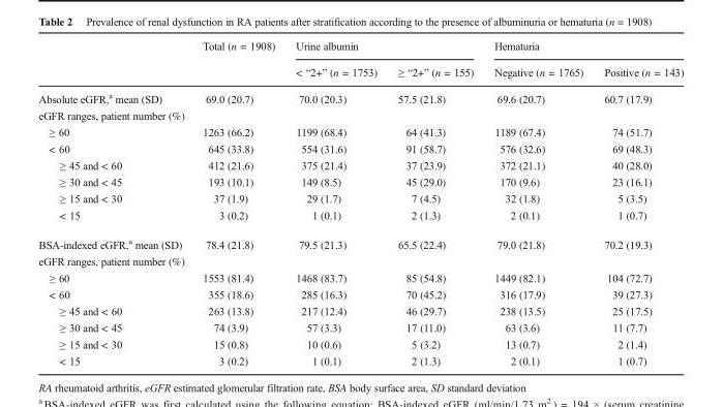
<table><thead><tr><td rowspan="2"></td><td rowspan="2">Total (n = 1908)</td><td colspan="2">Urine albumin</td><td colspan="2">Hematuria</td></tr><tr><td>&lt; “2+” (n = 1753)</td><td>≥ “2+” (n = 155)</td><td>Negative (n = 1765)</td><td>Positive (n = 143)</td></tr></thead><tbody><tr><td>Absolute eGFR,<sup>a</sup> mean (SD)</td><td>69.0 (20.7)</td><td>70.0 (20.3)</td><td>57.5 (21.8)</td><td>69.6 (20.7)</td><td>60.7 (17.9)</td></tr><tr><td colspan="6">eGFR ranges, patient number (%)</td></tr><tr><td>≥ 60</td><td>1263 (66.2)</td><td>1199 (68.4)</td><td>64 (41.3)</td><td>1189 (67.4)</td><td>74 (51.7)</td></tr><tr><td>&lt; 60</td><td>645 (33.8)</td><td>554 (31.6)</td><td>91 (58.7)</td><td>576 (32.6)</td><td>69 (48.3)</td></tr><tr><td>≥ 45 and &lt; 60</td><td>412 (21.6)</td><td>375 (21.4)</td><td>37 (23.9)</td><td>372 (21.1)</td><td>40 (28.0)</td></tr><tr><td>≥ 30 and &lt; 45</td><td>193 (10.1)</td><td>149 (8.5)</td><td>45 (29.0)</td><td>170 (9.6)</td><td>23 (16.1)</td></tr><tr><td>≥ 15 and &lt; 30</td><td>37 (1.9)</td><td>29 (1.7)</td><td>7 (4.5)</td><td>32 (1.8)</td><td>5 (3.5)</td></tr><tr><td>&lt; 15</td><td>3 (0.2)</td><td>1 (0.1)</td><td>2 (1.3)</td><td>2 (0.1)</td><td>1 (0.7)</td></tr><tr><td>BSA-indexed eGFR,<sup>a</sup> mean (SD)</td><td>78.4 (21.8)</td><td>79.5 (21.3)</td><td>65.5 (22.4)</td><td>79.0 (21.8)</td><td>70.2 (19.3)</td></tr><tr><td colspan="6">eGFR ranges, patient number (%)</td></tr><tr><td>≥ 60</td><td>1553 (81.4)</td><td>1468 (83.7)</td><td>85 (54.8)</td><td>1449 (82.1)</td><td>104 (72.7)</td></tr><tr><td>&lt; 60</td><td>355 (18.6)</td><td>285 (16.3)</td><td>70 (45.2)</td><td>316 (17.9)</td><td>39 (27.3)</td></tr><tr><td>≥ 45 and &lt; 60</td><td>263 (13.8)</td><td>217 (12.4)</td><td>46 (29.7)</td><td>238 (13.5)</td><td>25 (17.5)</td></tr><tr><td>≥ 30 and &lt; 45</td><td>74 (3.9)</td><td>57 (3.3)</td><td>17 (11.0)</td><td>63 (3.6)</td><td>11 (7.7)</td></tr><tr><td>≥ 15 and &lt; 30</td><td>15 (0.8)</td><td>10 (0.6)</td><td>5 (3.2)</td><td>13 (0.7)</td><td>2 (1.4)</td></tr><tr><td>&lt; 15</td><td>3 (0.2)</td><td>1 (0.1)</td><td>2 (1.3)</td><td>2 (0.1)</td><td>1 (0.7)</td></tr></tbody></table>